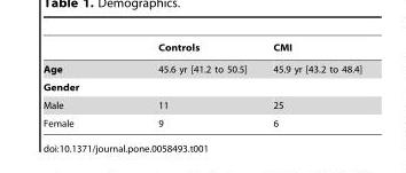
<table><thead><tr><td></td><td>Controls</td><td>CMI</td></tr></thead><tbody><tr><td>Age</td><td>45.6 yr [41.2 to 50.5]</td><td>45.9 yr [43.2 to 48.4]</td></tr><tr><td colspan="3">Gender</td></tr><tr><td>Male</td><td>11</td><td>25</td></tr><tr><td>Female</td><td>9</td><td>6</td></tr></tbody></table>